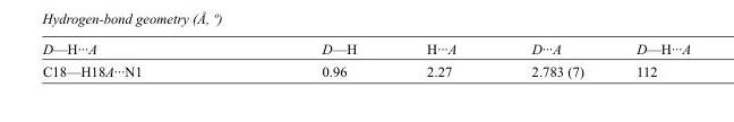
<table><tbody><tr><td>D—H···A</td><td>D—H</td><td>H···A</td><td>D···A</td><td>D—H···A</td></tr><tr><td>C18—H18A···N1</td><td>0.96</td><td>2.27</td><td>2.783 (7)</td><td>112</td></tr></tbody></table>